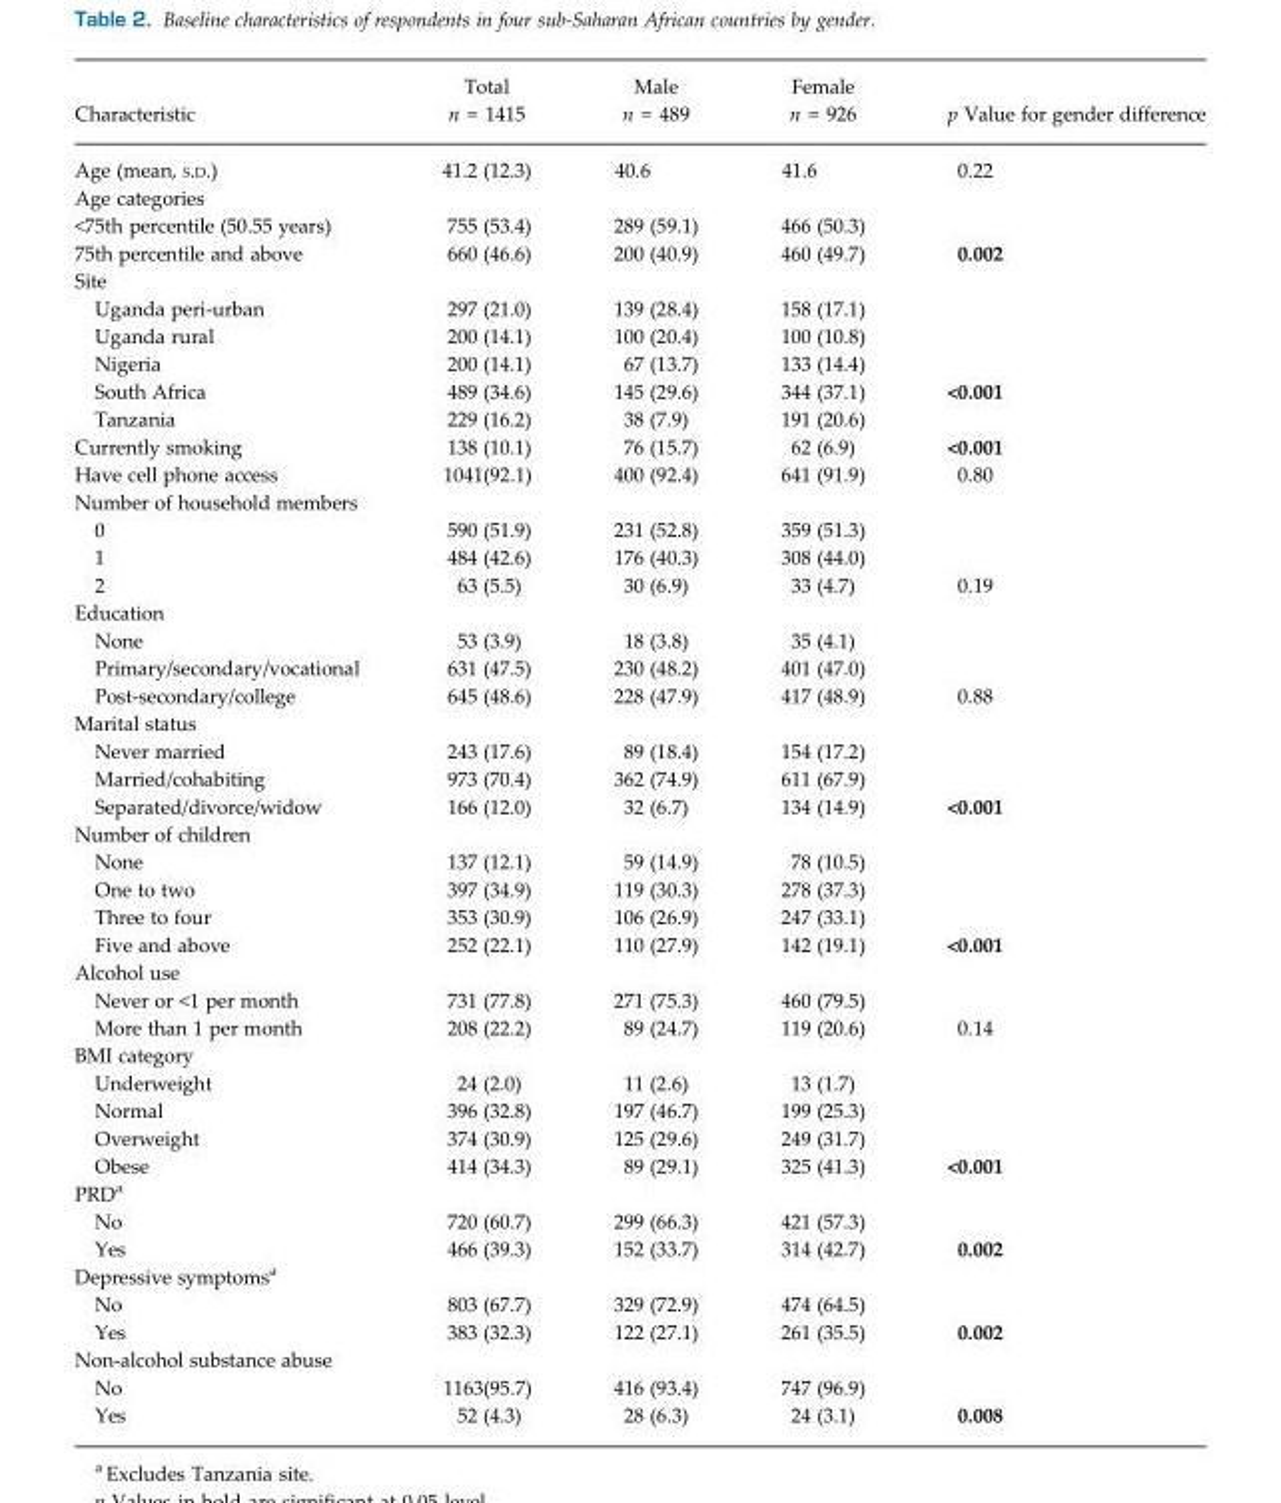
<table><thead><tr><td>Characteristic</td><td>Total n = 1415</td><td>Male n = 489</td><td>Female n = 926</td><td>p Value for gender difference</td></tr></thead><tbody><tr><td>Age (mean, S.D.)</td><td>41.2 (12.3)</td><td>40.6</td><td>41.6</td><td>0.22</td></tr><tr><td colspan="5">Age categories</td></tr><tr><td>&lt;75th percentile (50.55 years)</td><td>755 (53.4)</td><td>289 (59.1)</td><td>466 (50.3)</td><td></td></tr><tr><td>75th percentile and above</td><td>660 (46.6)</td><td>200 (40.9)</td><td>460 (49.7)</td><td>0.002</td></tr><tr><td colspan="5">Site</td></tr><tr><td>Uganda peri-urban</td><td>297 (21.0)</td><td>139 (28.4)</td><td>158 (17.1)</td><td></td></tr><tr><td>Uganda rural</td><td>200 (14.1)</td><td>100 (20.4)</td><td>100 (10.8)</td><td></td></tr><tr><td>Nigeria</td><td>200 (14.1)</td><td>67 (13.7)</td><td>133 (14.4)</td><td></td></tr><tr><td>South Africa</td><td>489 (34.6)</td><td>145 (29.6)</td><td>344 (37.1)</td><td>&lt;0.001</td></tr><tr><td>Tanzania</td><td>229 (16.2)</td><td>38 (7.9)</td><td>191 (20.6)</td><td></td></tr><tr><td>Currently smoking</td><td>138 (10.1)</td><td>76 (15.7)</td><td>62 (6.9)</td><td>&lt;0.001</td></tr><tr><td>Have cell phone access</td><td>1041(92.1)</td><td>400 (92.4)</td><td>641 (91.9)</td><td>0.80</td></tr><tr><td colspan="5">Number of household members</td></tr><tr><td>0</td><td>590 (51.9)</td><td>231 (52.8)</td><td>359 (51.3)</td><td></td></tr><tr><td>1</td><td>484 (42.6)</td><td>176 (40.3)</td><td>308 (44.0)</td><td></td></tr><tr><td>2</td><td>63 (5.5)</td><td>30 (6.9)</td><td>33 (4.7)</td><td>0.19</td></tr><tr><td colspan="5">Education</td></tr><tr><td>None</td><td>53 (3.9)</td><td>18 (3.8)</td><td>35 (4.1)</td><td></td></tr><tr><td>Primary/secondary/vocational</td><td>631 (47.5)</td><td>230 (48.2)</td><td>401 (47.0)</td><td></td></tr><tr><td>Post-secondary/college</td><td>645 (48.6)</td><td>228 (47.9)</td><td>417 (48.9)</td><td>0.88</td></tr><tr><td colspan="5">Marital status</td></tr><tr><td>Never married</td><td>243 (17.6)</td><td>89 (18.4)</td><td>154 (17.2)</td><td></td></tr><tr><td>Married/cohabiting</td><td>973 (70.4)</td><td>362 (74.9)</td><td>611 (67.9)</td><td></td></tr><tr><td>Separated/divorce/widow</td><td>166 (12.0)</td><td>32 (6.7)</td><td>134 (14.9)</td><td>&lt;0.001</td></tr><tr><td colspan="5">Number of children</td></tr><tr><td>None</td><td>137 (12.1)</td><td>59 (14.9)</td><td>78 (10.5)</td><td></td></tr><tr><td>One to two</td><td>397 (34.9)</td><td>119 (30.3)</td><td>278 (37.3)</td><td></td></tr><tr><td>Three to four</td><td>353 (30.9)</td><td>106 (26.9)</td><td>247 (33.1)</td><td></td></tr><tr><td>Five and above</td><td>252 (22.1)</td><td>110 (27.9)</td><td>142 (19.1)</td><td>&lt;0.001</td></tr><tr><td colspan="5">Alcohol use</td></tr><tr><td>Never or &lt;1 per month</td><td>731 (77.8)</td><td>271 (75.3)</td><td>460 (79.5)</td><td></td></tr><tr><td>More than 1 per month</td><td>208 (22.2)</td><td>89 (24.7)</td><td>119 (20.6)</td><td>0.14</td></tr><tr><td colspan="5">BMI category</td></tr><tr><td>Underweight</td><td>24 (2.0)</td><td>11 (2.6)</td><td>13 (1.7)</td><td></td></tr><tr><td>Normal</td><td>396 (32.8)</td><td>197 (46.7)</td><td>199 (25.3)</td><td></td></tr><tr><td>Overweight</td><td>374 (30.9)</td><td>125 (29.6)</td><td>249 (31.7)</td><td></td></tr><tr><td>Obese</td><td>414 (34.3)</td><td>89 (29.1)</td><td>325 (41.3)</td><td>&lt;0.001</td></tr><tr><td colspan="5">PRD<sup>a</sup></td></tr><tr><td>No</td><td>720 (60.7)</td><td>299 (66.3)</td><td>421 (57.3)</td><td></td></tr><tr><td>Yes</td><td>466 (39.3)</td><td>152 (33.7)</td><td>314 (42.7)</td><td>0.002</td></tr><tr><td colspan="5">Depressive symptoms<sup>a</sup></td></tr><tr><td>No</td><td>803 (67.7)</td><td>329 (72.9)</td><td>474 (64.5)</td><td></td></tr><tr><td>Yes</td><td>383 (32.3)</td><td>122 (27.1)</td><td>261 (35.5)</td><td>0.002</td></tr><tr><td colspan="5">Non-alcohol substance abuse</td></tr><tr><td>No</td><td>1163(95.7)</td><td>416 (93.4)</td><td>747 (96.9)</td><td></td></tr><tr><td>Yes</td><td>52 (4.3)</td><td>28 (6.3)</td><td>24 (3.1)</td><td>0.008</td></tr></tbody></table>